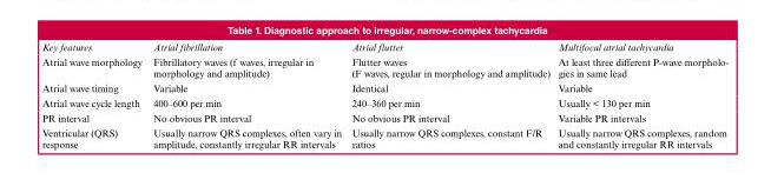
<table><thead><tr><td>Key features</td><td>Atrial fibrillation</td><td>Atrial flutter</td><td>Multifocal atrial tachycardia</td></tr></thead><tbody><tr><td>Atrial wave morphology</td><td>Fibrillatory waves (f waves, irregular in morphology and amplitude)</td><td>Flutter waves (F waves, regular in morphology and amplitude)</td><td>At least three different P-wave morpholo- gies in same lead</td></tr><tr><td>Atrial wave timing</td><td>Variable</td><td>Identical</td><td>Variable</td></tr><tr><td>Atrial wave cycle length</td><td>400–600 per min</td><td>240–360 per min</td><td>Usually &lt; 130 per min</td></tr><tr><td>PR interval</td><td>No obvious PR interval</td><td>No obvious PR interval</td><td>Variable PR intervals</td></tr><tr><td>Ventricular (QRS) response</td><td>Usually narrow QRS complexes, often vary in amplitude, constantly irregular RR intervals</td><td>Usually narrow QRS complexes, constant F/R ratios</td><td>Usually narrow QRS complexes, random and constantly irregular RR intervals</td></tr></tbody></table>